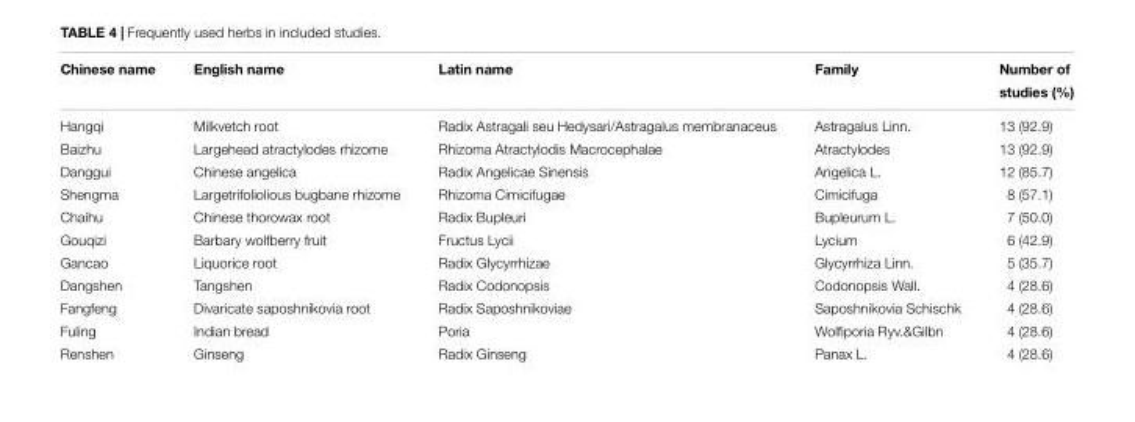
<table><thead><tr><td>Chinese name</td><td>English name</td><td>Latin name</td><td>Family</td><td>Number of studies (%)</td></tr></thead><tbody><tr><td>Hangqi</td><td>Milkvetch root</td><td>Radix Astragali seu Hedysari/Astragalus membranaceus</td><td>Astragalus Linn.</td><td>13 (92.9)</td></tr><tr><td>Baizhu</td><td>Largehead atractylodes rhizome</td><td>Rhizoma Atractylodis Macrocephalae</td><td>Atractylodes</td><td>13 (92.9)</td></tr><tr><td>Danggui</td><td>Chinese angelica</td><td>Radix Angelicae Sinensis</td><td>Angelica L.</td><td>12 (85.7)</td></tr><tr><td>Shengma</td><td>Largetrifoliolious bugbane rhizome</td><td>Rhizoma Cimicifugae</td><td>Cimicifuga</td><td>8 (57.1)</td></tr><tr><td>Chaihu</td><td>Chinese thorowax root</td><td>Radix Bupleuri</td><td>Bupleurum L.</td><td>7 (50.0)</td></tr><tr><td>Gouqizi</td><td>Barbary wolfberry fruit</td><td>Fructus Lycii</td><td>Lycium</td><td>6 (42.9)</td></tr><tr><td>Gancao</td><td>Liquorice root</td><td>Radix Glycyrrhizae</td><td>Glycyrrhiza Linn.</td><td>5 (35.7)</td></tr><tr><td>Dangshen</td><td>Tangshen</td><td>Radix Codonopsis</td><td>Codonopsis Wall.</td><td>4 (28.6)</td></tr><tr><td>Fangfeng</td><td>Divaricate saposhnikovia root</td><td>Radix Saposhnikoviae</td><td>Saposhnikovia Schischk</td><td>4 (28.6)</td></tr><tr><td>Fuling</td><td>Indian bread</td><td>Poria</td><td>Wolfiporia Ryv.&amp;Gilbn</td><td>4 (28.6)</td></tr><tr><td>Renshen</td><td>Ginseng</td><td>Radix Ginseng</td><td>Panax L.</td><td>4 (28.6)</td></tr></tbody></table>